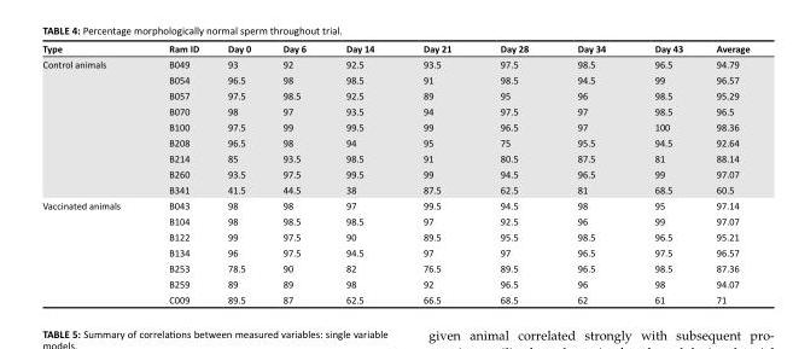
<table><thead><tr><td>Type</td><td>Ram ID</td><td>Day 0</td><td>Day 6</td><td>Day 14</td><td>Day 21</td><td>Day 28</td><td>Day 34</td><td>Day 43</td><td>Average</td></tr></thead><tbody><tr><td rowspan="9">Control animals</td><td>B049</td><td>93</td><td>92</td><td>92.5</td><td>93.5</td><td>97.5</td><td>98.5</td><td>96.5</td><td>94.79</td></tr><tr><td>B054</td><td>96.5</td><td>98</td><td>98.5</td><td>91</td><td>98.5</td><td>94.5</td><td>99</td><td>96.57</td></tr><tr><td>B057</td><td>97.5</td><td>98.5</td><td>92.5</td><td>89</td><td>95</td><td>96</td><td>98.5</td><td>95.29</td></tr><tr><td>B070</td><td>98</td><td>97</td><td>93.5</td><td>94</td><td>97.5</td><td>97</td><td>98.5</td><td>96.5</td></tr><tr><td>B100</td><td>97.5</td><td>99</td><td>99.5</td><td>99</td><td>96.5</td><td>97</td><td>100</td><td>98.36</td></tr><tr><td>B208</td><td>96.5</td><td>98</td><td>94</td><td>95</td><td>75</td><td>95.5</td><td>94.5</td><td>92.64</td></tr><tr><td>B214</td><td>85</td><td>93.5</td><td>98.5</td><td>91</td><td>80.5</td><td>87.5</td><td>81</td><td>88.14</td></tr><tr><td>B260</td><td>93.5</td><td>97.5</td><td>99.5</td><td>99</td><td>94.5</td><td>96.5</td><td>99</td><td>97.07</td></tr><tr><td>B341</td><td>41.5</td><td>44.5</td><td>38</td><td>87.5</td><td>62.5</td><td>81</td><td>68.5</td><td>60.5</td></tr><tr><td rowspan="7">Vaccinated animals</td><td>B043</td><td>98</td><td>98</td><td>97</td><td>99.5</td><td>94.5</td><td>98</td><td>95</td><td>97.14</td></tr><tr><td>B104</td><td>98</td><td>98.5</td><td>98.5</td><td>97</td><td>92.5</td><td>96</td><td>99</td><td>97.07</td></tr><tr><td>B122</td><td>99</td><td>97.5</td><td>90</td><td>89.5</td><td>95.5</td><td>98.5</td><td>96.5</td><td>95.21</td></tr><tr><td>B134</td><td>96</td><td>97.5</td><td>94.5</td><td>97</td><td>97</td><td>96.5</td><td>97.5</td><td>96.57</td></tr><tr><td>B253</td><td>78.5</td><td>90</td><td>82</td><td>76.5</td><td>89.5</td><td>96.5</td><td>98.5</td><td>87.36</td></tr><tr><td>B259</td><td>89</td><td>89</td><td>98</td><td>92</td><td>96.5</td><td>96</td><td>98</td><td>94.07</td></tr><tr><td>C009</td><td>89.5</td><td>87</td><td>62.5</td><td>66.5</td><td>68.5</td><td>62</td><td>61</td><td>71</td></tr></tbody></table>